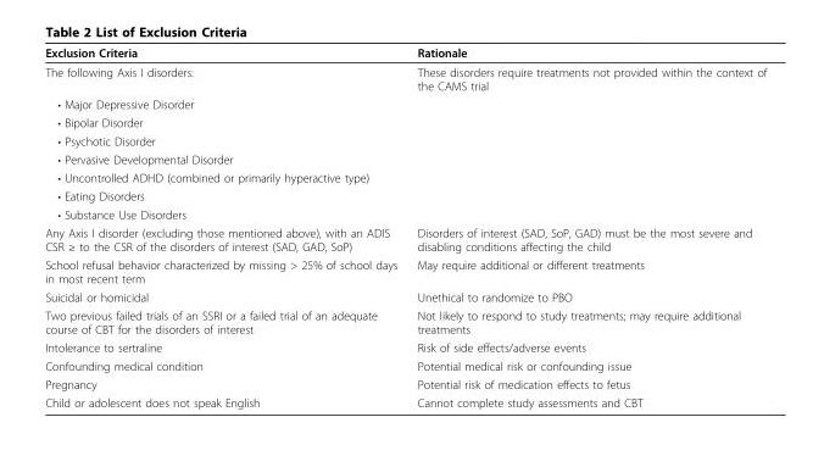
<table><thead><tr><td>Exclusion Criteria</td><td>Rationale</td></tr></thead><tbody><tr><td>The following Axis I disorders:</td><td>These disorders require treatments not provided within the context of the CAMS trial</td></tr><tr><td colspan="2">• Major Depressive Disorder</td></tr><tr><td colspan="2">• Bipolar Disorder</td></tr><tr><td colspan="2">• Psychotic Disorder</td></tr><tr><td colspan="2">• Pervasive Developmental Disorder</td></tr><tr><td colspan="2">• Uncontrolled ADHD (combined or primarily hyperactive type)</td></tr><tr><td colspan="2">• Eating Disorders</td></tr><tr><td colspan="2">• Substance Use Disorders</td></tr><tr><td>Any Axis I disorder (excluding those mentioned above), with an ADIS CSR ≥ to the CSR of the disorders of interest (SAD, GAD, SoP)</td><td>Disorders of interest (SAD, SoP, GAD) must be the most severe and disabling conditions affecting the child</td></tr><tr><td>School refusal behavior characterized by missing &gt; 25% of school days in most recent term</td><td>May require additional or different treatments</td></tr><tr><td>Suicidal or homicidal</td><td>Unethical to randomize to PBO</td></tr><tr><td>Two previous failed trials of an SSRI or a failed trial of an adequate course of CBT for the disorders of interest</td><td>Not likely to respond to study treatments; may require additional treatments</td></tr><tr><td>Intolerance to sertraline</td><td>Risk of side effects/adverse events</td></tr><tr><td>Confounding medical condition</td><td>Potential medical risk or confounding issue</td></tr><tr><td>Pregnancy</td><td>Potential risk of medication effects to fetus</td></tr><tr><td>Child or adolescent does not speak English</td><td>Cannot complete study assessments and CBT</td></tr></tbody></table>